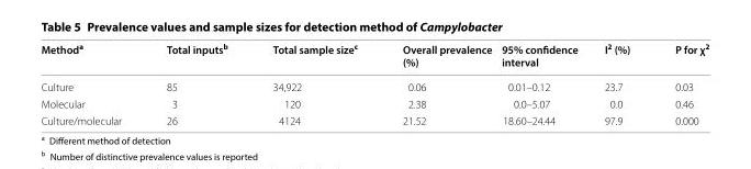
<table><thead><tr><td>Method<sup>a</sup></td><td>Total inputs<sup>b</sup></td><td>Total sample size<sup>c</sup></td><td>Overall prevalence (%)</td><td>95% confidence interval</td><td>I<sup>2</sup> (%)</td><td>P for χ<sup>2</sup></td></tr></thead><tbody><tr><td>Culture</td><td>85</td><td>34,922</td><td>0.06</td><td>0.01–0.12</td><td>23.7</td><td>0.03</td></tr><tr><td>Molecular</td><td>3</td><td>120</td><td>2.38</td><td>0.0–5.07</td><td>0.0</td><td>0.46</td></tr><tr><td>Culture/molecular</td><td>26</td><td>4124</td><td>21.52</td><td>18.60–24.44</td><td>97.9</td><td>0.000</td></tr></tbody></table>